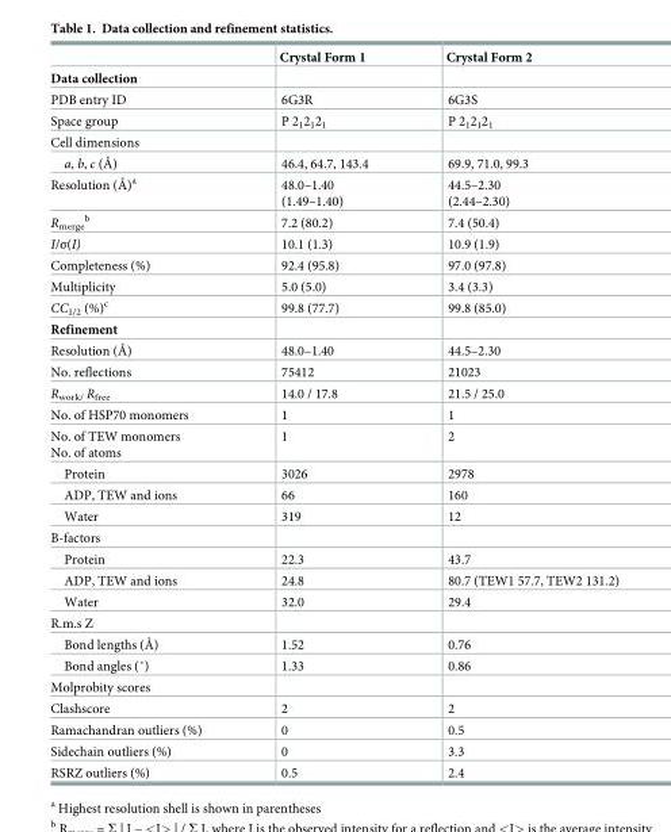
<table><thead><tr><td></td><td>Crystal Form 1</td><td>Crystal Form 2</td></tr></thead><tbody><tr><td colspan="3">Data collection</td></tr><tr><td>PDB entry ID</td><td>6G3R</td><td>6G3S</td></tr><tr><td>Space group</td><td>P 2<sub>1</sub>2<sub>1</sub>2<sub>1</sub></td><td>P 2<sub>1</sub>2<sub>1</sub>2<sub>1</sub></td></tr><tr><td colspan="3">Cell dimensions</td></tr><tr><td>a, b, c (Å)</td><td>46.4, 64.7, 143.4</td><td>69.9, 71.0, 99.3</td></tr><tr><td>Resolution (Å)<sup>a</sup></td><td>48.0–1.40 (1.49–1.40)</td><td>44.5–2.30 (2.44–2.30)</td></tr><tr><td>R<sub>merge</sub> <sup>b</sup></td><td>7.2 (80.2)</td><td>7.4 (50.4)</td></tr><tr><td>I/σ(I)</td><td>10.1 (1.3)</td><td>10.9 (1.9)</td></tr><tr><td>Completeness (%)</td><td>92.4 (95.8)</td><td>97.0 (97.8)</td></tr><tr><td>Multiplicity</td><td>5.0 (5.0)</td><td>3.4 (3.3)</td></tr><tr><td>CC<sub>1/2</sub> (%)<sup>c</sup></td><td>99.8 (77.7)</td><td>99.8 (85.0)</td></tr><tr><td colspan="3">Refinement</td></tr><tr><td>Resolution (Å)</td><td>48.0–1.40</td><td>44.5–2.30</td></tr><tr><td>No. reflections</td><td>75412</td><td>21023</td></tr><tr><td>R<sub>work/</sub> R<sub>free</sub></td><td>14.0 / 17.8</td><td>21.5 / 25.0</td></tr><tr><td>No. of HSP70 monomers</td><td>1</td><td>1</td></tr><tr><td>No. of TEW monomers No. of atoms</td><td>1</td><td>2</td></tr><tr><td>Protein</td><td>3026</td><td>2978</td></tr><tr><td>ADP, TEW and ions</td><td>66</td><td>160</td></tr><tr><td>Water</td><td>319</td><td>12</td></tr><tr><td colspan="3">B-factors</td></tr><tr><td>Protein</td><td>22.3</td><td>43.7</td></tr><tr><td>ADP, TEW and ions</td><td>24.8</td><td>80.7 (TEW1 57.7, TEW2 131.2)</td></tr><tr><td>Water</td><td>32.0</td><td>29.4</td></tr><tr><td colspan="3">R.m.s Z</td></tr><tr><td>Bond lengths (Å)</td><td>1.52</td><td>0.76</td></tr><tr><td>Bond angles (˚)</td><td>1.33</td><td>0.86</td></tr><tr><td colspan="3">Molprobity scores</td></tr><tr><td>Clashscore</td><td>2</td><td>2</td></tr><tr><td>Ramachandran outliers (%)</td><td>0</td><td>0.5</td></tr><tr><td>Sidechain outliers (%)</td><td>0</td><td>3.3</td></tr><tr><td>RSRZ outliers (%)</td><td>0.5</td><td>2.4</td></tr></tbody></table>